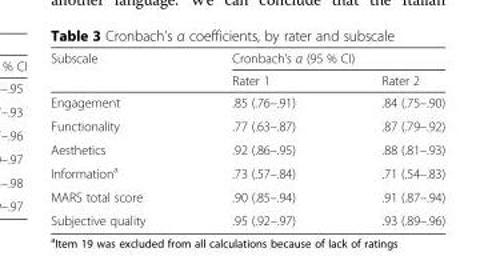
<table><thead><tr><td rowspan="2">Subscale</td><td colspan="2">Cronbach’s α (95 % CI)</td></tr><tr><td>Rater 1</td><td>Rater 2</td></tr></thead><tbody><tr><td>Engagement</td><td>.85 (.76–.91)</td><td>.84 (.75–.90)</td></tr><tr><td>Functionality</td><td>.77 (.63–.87)</td><td>.87 (.79–.92)</td></tr><tr><td>Aesthetics</td><td>.92 (.86–.95)</td><td>.88 (.81–.93)</td></tr><tr><td>Information<sup>a</sup></td><td>.73 (.57–.84)</td><td>.71 (.54–.83)</td></tr><tr><td>MARS total score</td><td>.90 (.85–.94)</td><td>.91 (.87–.94)</td></tr><tr><td>Subjective quality</td><td>.95 (.92–.97)</td><td>.93 (.89–.96)</td></tr></tbody></table>